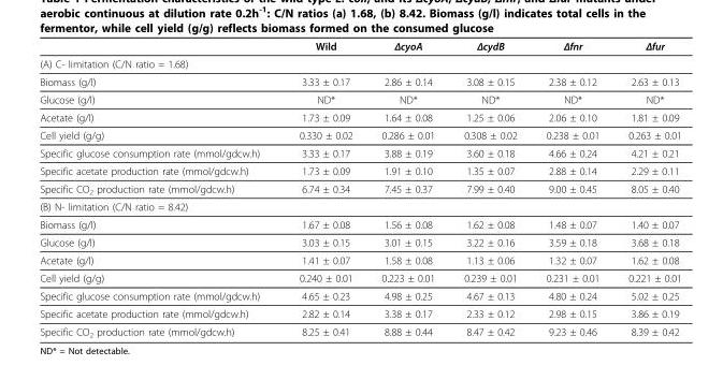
<table><thead><tr><td></td><td>Wild</td><td>ΔcyoA</td><td>ΔcydB</td><td>Δfnr</td><td>Δfur</td></tr></thead><tbody><tr><td colspan="6">(A) C- limitation (C/N ratio = 1.68)</td></tr><tr><td>Biomass (g/l)</td><td>3.33 ± 0.17</td><td>2.86 ± 0.14</td><td>3.08 ± 0.15</td><td>2.38 ± 0.12</td><td>2.63 ± 0.13</td></tr><tr><td>Glucose (g/l)</td><td>ND*</td><td>ND*</td><td>ND*</td><td>ND*</td><td>ND*</td></tr><tr><td>Acetate (g/l)</td><td>1.73 ± 0.09</td><td>1.64 ± 0.08</td><td>1.25 ± 0.06</td><td>2.06 ± 0.10</td><td>1.81 ± 0.09</td></tr><tr><td>Cell yield (g/g)</td><td>0.330 ± 0.02</td><td>0.286 ± 0.01</td><td>0.308 ± 0.02</td><td>0.238 ± 0.01</td><td>0.263 ± 0.01</td></tr><tr><td>Specific glucose consumption rate (mmol/gdcw.h)</td><td>3.33 ± 0.17</td><td>3.88 ± 0.19</td><td>3.60 ± 0.18</td><td>4.66 ± 0.24</td><td>4.21 ± 0.21</td></tr><tr><td>Specific acetate production rate (mmol/gdcw.h)</td><td>1.73 ± 0.09</td><td>1.91 ± 0.10</td><td>1.35 ± 0.07</td><td>2.88 ± 0.14</td><td>2.29 ± 0.11</td></tr><tr><td>Specific CO<sub>2</sub> production rate (mmol/gdcw.h)</td><td>6.74 ± 0.34</td><td>7.45 ± 0.37</td><td>7.99 ± 0.40</td><td>9.00 ± 0.45</td><td>8.05 ± 0.40</td></tr><tr><td colspan="6">(B) N- limitation (C/N ratio = 8.42)</td></tr><tr><td>Biomass (g/l)</td><td>1.67 ± 0.08</td><td>1.56 ± 0.08</td><td>1.62 ± 0.08</td><td>1.48 ± 0.07</td><td>1.40 ± 0.07</td></tr><tr><td>Glucose (g/l)</td><td>3.03 ± 0.15</td><td>3.01 ± 0.15</td><td>3.22 ± 0.16</td><td>3.59 ± 0.18</td><td>3.68 ± 0.18</td></tr><tr><td>Acetate (g/l)</td><td>1.41 ± 0.07</td><td>1.58 ± 0.08</td><td>1.13 ± 0.06</td><td>1.32 ± 0.07</td><td>1.62 ± 0.08</td></tr><tr><td>Cell yield (g/g)</td><td>0.240 ± 0.01</td><td>0.223 ± 0.01</td><td>0.239 ± 0.01</td><td>0.231 ± 0.01</td><td>0.221 ± 0.01</td></tr><tr><td>Specific glucose consumption rate (mmol/gdcw.h)</td><td>4.65 ± 0.23</td><td>4.98 ± 0.25</td><td>4.67 ± 0.13</td><td>4.80 ± 0.24</td><td>5.02 ± 0.25</td></tr><tr><td>Specific acetate production rate (mmol/gdcw.h)</td><td>2.82 ± 0.14</td><td>3.38 ± 0.17</td><td>2.33 ± 0.12</td><td>2.98 ± 0.15</td><td>3.86 ± 0.19</td></tr><tr><td>Specific CO<sub>2</sub> production rate (mmol/gdcw.h)</td><td>8.25 ± 0.41</td><td>8.88 ± 0.44</td><td>8.47 ± 0.42</td><td>9.23 ± 0.46</td><td>8.39 ± 0.42</td></tr></tbody></table>